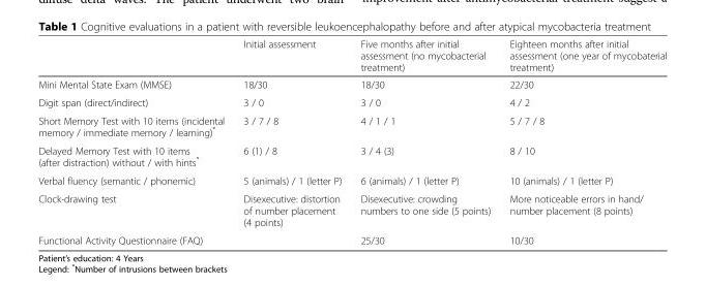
<table><thead><tr><td></td><td>Initial assessment</td><td>Five months after initial assessment (no mycobacterial treatment)</td><td>Eighteen months after initial assessment (one year of mycobaterial treatment)</td></tr></thead><tbody><tr><td>Mini Mental State Exam (MMSE)</td><td>18/30</td><td>18/30</td><td>22/30</td></tr><tr><td>Digit span (direct/indirect)</td><td>3 / 0</td><td>3 / 0</td><td>4 / 2</td></tr><tr><td>Short Memory Test with 10 items (incidental memory / immediate memory / learning)*</td><td>3 / 7 / 8</td><td>4 / 1 / 1</td><td>5 / 7 / 8</td></tr><tr><td>Delayed Memory Test with 10 items (after distraction) without / with hints*</td><td>6 (1) / 8</td><td>3 / 4 (3)</td><td>8 / 10</td></tr><tr><td>Verbal fluency (semantic / phonemic)</td><td>5 (animals) / 1 (letter P)</td><td>6 (animals) / 1 (letter P)</td><td>10 (animals) / 1 (letter P)</td></tr><tr><td>Clock-drawing test</td><td>Disexecutive: distortion of number placement (4 points)</td><td>Disexecutive: crowding numbers to one side (5 points)</td><td>More noticeable errors in hand/ number placement (8 points)</td></tr><tr><td>Functional Activity Questionnaire (FAQ)</td><td></td><td>25/30</td><td>10/30</td></tr></tbody></table>